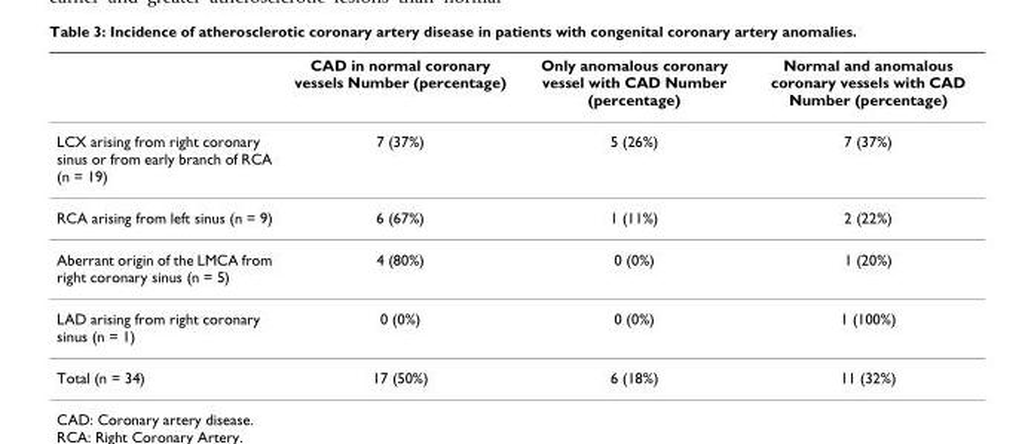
<table><thead><tr><td></td><td>CAD in normal coronary vessels Number (percentage)</td><td>Only anomalous coronary vessel with CAD Number (percentage)</td><td>Normal and anomalous coronary vessels with CAD Number (percentage)</td></tr></thead><tbody><tr><td>LCX arising from right coronary sinus or from early branch of RCA (n = 19)</td><td>7 (37%)</td><td>5 (26%)</td><td>7 (37%)</td></tr><tr><td>RCA arising from left sinus (n = 9)</td><td>6 (67%)</td><td>1 (11%)</td><td>2 (22%)</td></tr><tr><td>Aberrant origin of the LMCA from right coronary sinus (n = 5)</td><td>4 (80%)</td><td>0 (0%)</td><td>1 (20%)</td></tr><tr><td>LAD arising from right coronary sinus (n = 1)</td><td>0 (0%)</td><td>0 (0%)</td><td>1 (100%)</td></tr><tr><td>Total (n = 34)</td><td>17 (50%)</td><td>6 (18%)</td><td>11 (32%)</td></tr></tbody></table>